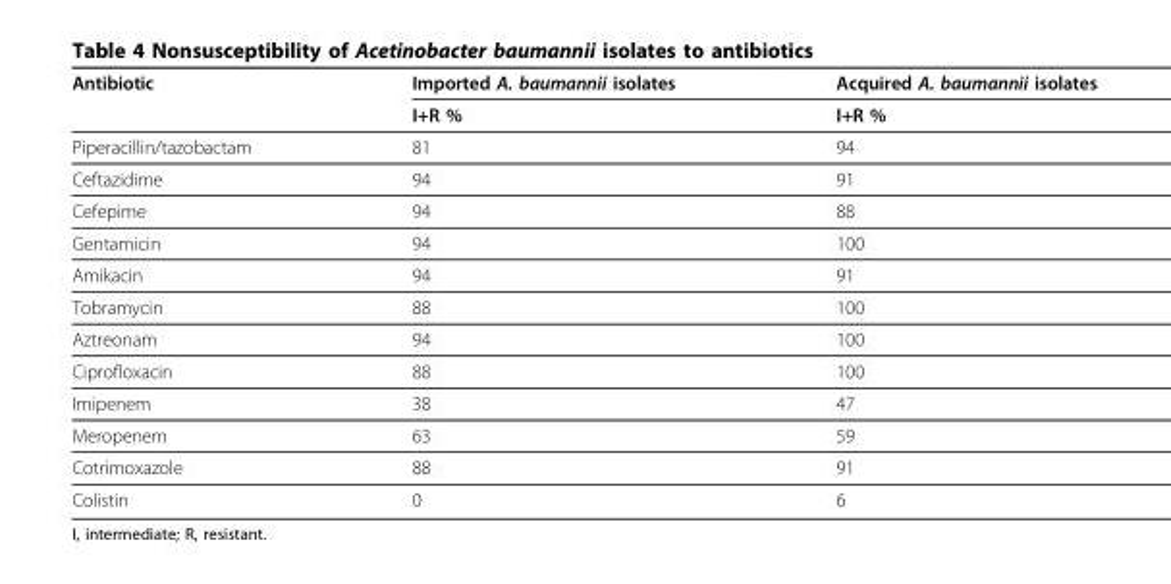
<table><thead><tr><td rowspan="2">Antibiotic</td><td rowspan="2">Imported A. baumannii isolates I+R %</td><td rowspan="2">Acquired A. baumannii isolates I+R %</td></tr><tr></tr></thead><tbody><tr><td>Piperacillin/tazobactam</td><td>81</td><td>94</td></tr><tr><td>Ceftazidime</td><td>94</td><td>91</td></tr><tr><td>Cefepime</td><td>94</td><td>88</td></tr><tr><td>Gentamicin</td><td>94</td><td>100</td></tr><tr><td>Amikacin</td><td>94</td><td>91</td></tr><tr><td>Tobramycin</td><td>88</td><td>100</td></tr><tr><td>Aztreonam</td><td>94</td><td>100</td></tr><tr><td>Ciprofloxacin</td><td>88</td><td>100</td></tr><tr><td>Imipenem</td><td>38</td><td>47</td></tr><tr><td>Meropenem</td><td>63</td><td>59</td></tr><tr><td>Cotrimoxazole</td><td>88</td><td>91</td></tr><tr><td>Colistin</td><td>0</td><td>6</td></tr></tbody></table>